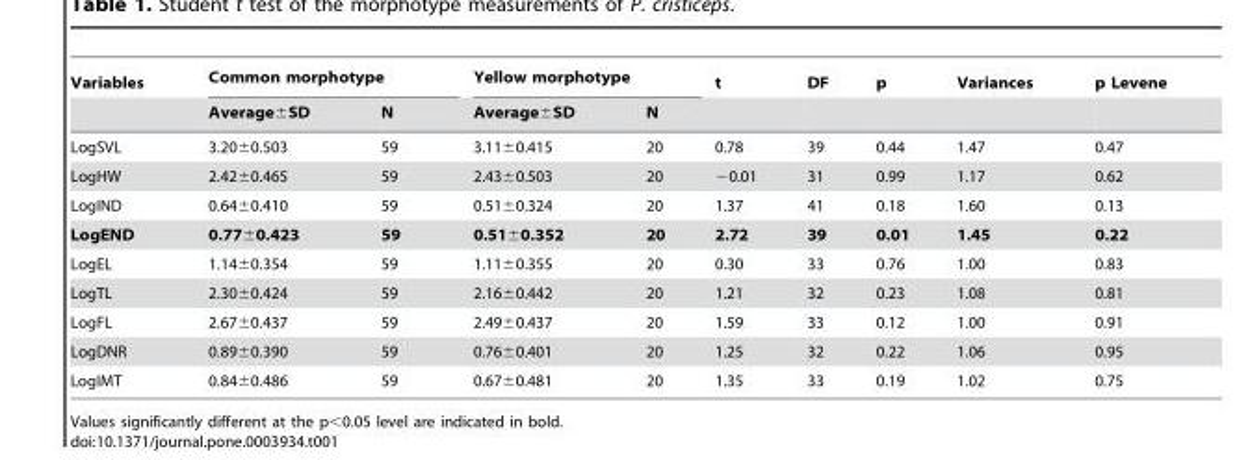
<table><thead><tr><td rowspan="2">Variables</td><td colspan="2">Common morphotype</td><td colspan="2">Yellow morphotype</td><td rowspan="2">t</td><td rowspan="2">DF</td><td rowspan="2">p</td><td rowspan="2">Variances</td><td rowspan="2">p Levene</td></tr><tr><td>Average±SD</td><td>N</td><td>Average±SD</td><td>N</td></tr></thead><tbody><tr><td>LogSVL</td><td>3.20±0.503</td><td>59</td><td>3.11±0.415</td><td>20</td><td>0.78</td><td>39</td><td>0.44</td><td>1.47</td><td>0.47</td></tr><tr><td>LogHW</td><td>2.42±0.465</td><td>59</td><td>2.43±0.503</td><td>20</td><td>−0.01</td><td>31</td><td>0.99</td><td>1.17</td><td>0.62</td></tr><tr><td>LogIND</td><td>0.64±0.410</td><td>59</td><td>0.51±0.324</td><td>20</td><td>1.37</td><td>41</td><td>0.18</td><td>1.60</td><td>0.13</td></tr><tr><td>LogEND</td><td>0.77±0.423</td><td>59</td><td>0.51±0.352</td><td>20</td><td>2.72</td><td>39</td><td>0.01</td><td>1.45</td><td>0.22</td></tr><tr><td>LogEL</td><td>1.14±0.354</td><td>59</td><td>1.11±0.355</td><td>20</td><td>0.30</td><td>33</td><td>0.76</td><td>1.00</td><td>0.83</td></tr><tr><td>LogTL</td><td>2.30±0.424</td><td>59</td><td>2.16±0.442</td><td>20</td><td>1.21</td><td>32</td><td>0.23</td><td>1.08</td><td>0.81</td></tr><tr><td>LogFL</td><td>2.67±0.437</td><td>59</td><td>2.49±0.437</td><td>20</td><td>1.59</td><td>33</td><td>0.12</td><td>1.00</td><td>0.91</td></tr><tr><td>LogDNR</td><td>0.89±0.390</td><td>59</td><td>0.76±0.401</td><td>20</td><td>1.25</td><td>32</td><td>0.22</td><td>1.06</td><td>0.95</td></tr><tr><td>LogIMT</td><td>0.84±0.486</td><td>59</td><td>0.67±0.481</td><td>20</td><td>1.35</td><td>33</td><td>0.19</td><td>1.02</td><td>0.75</td></tr></tbody></table>